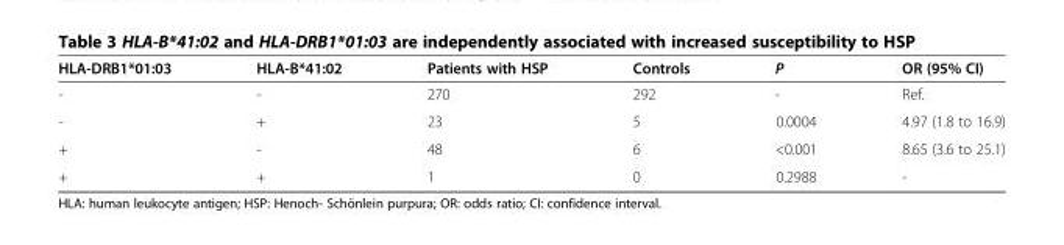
<table><thead><tr><td>HLA-DRB1*01:03</td><td>HLA-B*41:02</td><td>Patients with HSP</td><td>Controls</td><td>P</td><td>OR (95% CI)</td></tr></thead><tbody><tr><td>-</td><td>-</td><td>270</td><td>292</td><td>-</td><td>Ref.</td></tr><tr><td>-</td><td>+</td><td>23</td><td>5</td><td>0.0004</td><td>4.97 (1.8 to 16.9)</td></tr><tr><td>+</td><td>-</td><td>48</td><td>6</td><td>&lt;0.001</td><td>8.65 (3.6 to 25.1)</td></tr><tr><td>+</td><td>+</td><td>1</td><td>0</td><td>0.2988</td><td>-</td></tr></tbody></table>